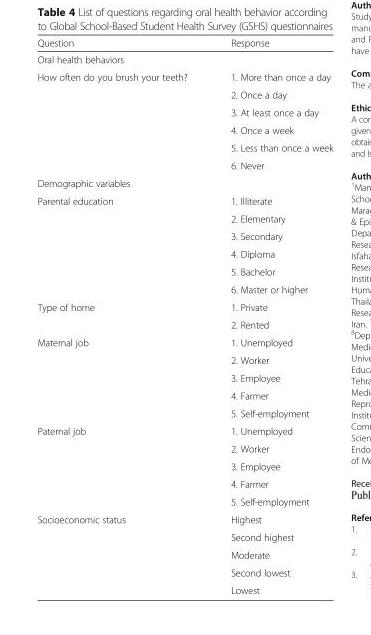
<table><thead><tr><td>Question</td><td>Response</td></tr></thead><tbody><tr><td colspan="2">Oral health behaviors</td></tr><tr><td rowspan="6">How often do you brush your teeth?</td><td>1. More than once a day</td></tr><tr><td>2. Once a day</td></tr><tr><td>3. At least once a day</td></tr><tr><td>4. Once a week</td></tr><tr><td>5. Less than once a week</td></tr><tr><td>6. Never</td></tr><tr><td colspan="2">Demographic variables</td></tr><tr><td rowspan="6">Parental education</td><td>1. Illiterate</td></tr><tr><td>2. Elementary</td></tr><tr><td>3. Secondary</td></tr><tr><td>4. Diploma</td></tr><tr><td>5. Bachelor</td></tr><tr><td>6. Master or higher</td></tr><tr><td rowspan="2">Type of home</td><td>1. Private</td></tr><tr><td>2. Rented</td></tr><tr><td rowspan="5">Maternal job</td><td>1. Unemployed</td></tr><tr><td>2. Worker</td></tr><tr><td>3. Employee</td></tr><tr><td>4. Farmer</td></tr><tr><td>5. Self-employment</td></tr><tr><td rowspan="5">Paternal job</td><td>1. Unemployed</td></tr><tr><td>2. Worker</td></tr><tr><td>3. Employee</td></tr><tr><td>4. Farmer</td></tr><tr><td>5. Self-employment</td></tr><tr><td rowspan="5">Socioeconomic status</td><td>Highest</td></tr><tr><td>Second highest</td></tr><tr><td>Moderate</td></tr><tr><td>Second lowest</td></tr><tr><td>Lowest</td></tr></tbody></table>